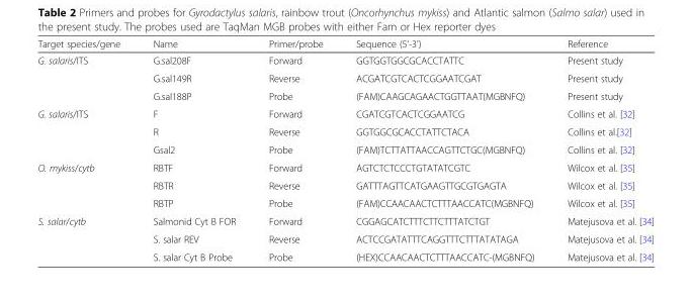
<table><thead><tr><td>Target species/gene</td><td>Name</td><td>Primer/probe</td><td>Sequence (5&#x27;-3&#x27;)</td><td>Reference</td></tr></thead><tbody><tr><td rowspan="3">G. salaris/ITS</td><td>G.sal208F</td><td>Forward</td><td>GGTGGTGGCGCACCTATTC</td><td>Present study</td></tr><tr><td>G.sal149R</td><td>Reverse</td><td>ACGATCGTCACTCGGAATCGAT</td><td>Present study</td></tr><tr><td>G.sal188P</td><td>Probe</td><td>(FAM)CAAGCAGAACTGGTTAAT(MGBNFQ)</td><td>Present study</td></tr><tr><td rowspan="3">G. salaris/ITS</td><td>F</td><td>Forward</td><td>CGATCGTCACTCGGAATCG</td><td>Collins et al. [32]</td></tr><tr><td>R</td><td>Reverse</td><td>GGTGGCGCACCTATTCTACA</td><td>Collins et al.[32]</td></tr><tr><td>Gsal2</td><td>Probe</td><td>(FAM)TCTTATTAACCAGTTCTGC(MGBNFQ)</td><td>Collins et al. [32]</td></tr><tr><td rowspan="3">O. mykiss/cytb</td><td>RBTF</td><td>Forward</td><td>AGTCTCTCCCTGTATATCGTC</td><td>Wilcox et al. [35]</td></tr><tr><td>RBTR</td><td>Reverse</td><td>GATTTAGTTCATGAAGTTGCGTGAGTA</td><td>Wilcox et al. [35]</td></tr><tr><td>RBTP</td><td>Probe</td><td>(FAM)CCAACAACTCTTTAACCATC(MGBNFQ)</td><td>Wilcox et al. [35]</td></tr><tr><td rowspan="3">S. salar/cytb</td><td>Salmonid Cyt B FOR</td><td>Forward</td><td>CGGAGCATCTTTCTTCTTTATCTGT</td><td>Matejusova et al. [34]</td></tr><tr><td>S. salar REV</td><td>Reverse</td><td>ACTCCGATATTTCAGGTTTCTTTATATAGA</td><td>Matejusova et al. [34]</td></tr><tr><td>S. salar Cyt B Probe</td><td>Probe</td><td>(HEX)CCAACAACTCTTTAACCATC-(MGBNFQ)</td><td>Matejusova et al. [34]</td></tr></tbody></table>